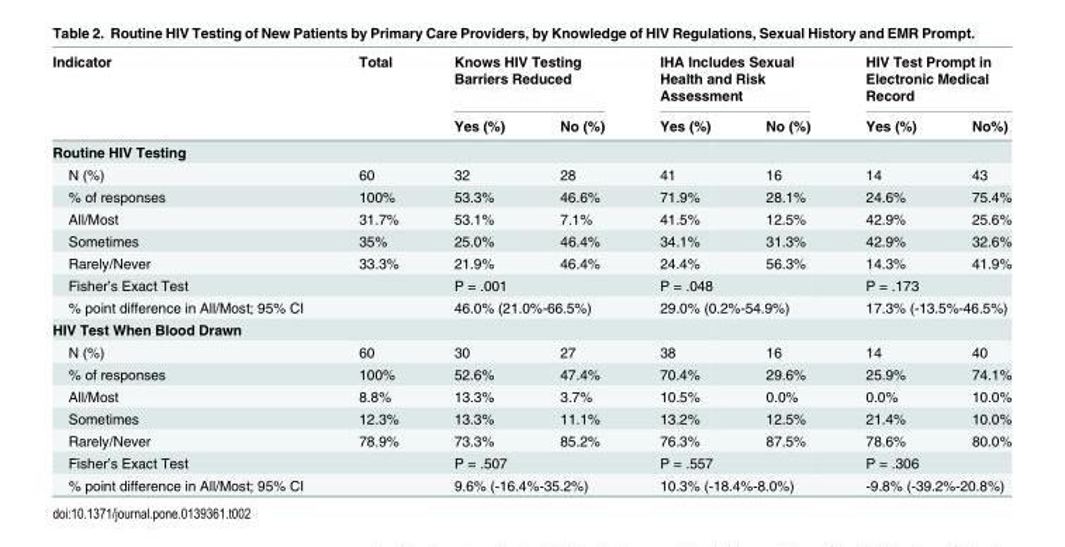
<table><thead><tr><td rowspan="2">Indicator</td><td rowspan="2">Total</td><td colspan="2">Knows HIV Testing Barriers Reduced</td><td colspan="2">IHA Includes Sexual Health and Risk Assessment</td><td colspan="2">HIV Test Prompt in Electronic Medical Record</td></tr><tr><td>Yes (%)</td><td>No (%)</td><td>Yes (%)</td><td>No (%)</td><td>Yes (%)</td><td>No%)</td></tr></thead><tbody><tr><td colspan="8">Routine HIV Testing</td></tr><tr><td>N (%)</td><td>60</td><td>32</td><td>28</td><td>41</td><td>16</td><td>14</td><td>43</td></tr><tr><td>% of responses</td><td>100%</td><td>53.3%</td><td>46.6%</td><td>71.9%</td><td>28.1%</td><td>24.6%</td><td>75.4%</td></tr><tr><td>All/Most</td><td>31.7%</td><td>53.1%</td><td>7.1%</td><td>41.5%</td><td>12.5%</td><td>42.9%</td><td>25.6%</td></tr><tr><td>Sometimes</td><td>35%</td><td>25.0%</td><td>46.4%</td><td>34.1%</td><td>31.3%</td><td>42.9%</td><td>32.6%</td></tr><tr><td>Rarely/Never</td><td>33.3%</td><td>21.9%</td><td>46.4%</td><td>24.4%</td><td>56.3%</td><td>14.3%</td><td>41.9%</td></tr><tr><td>Fisher’s Exact Test</td><td></td><td colspan="2">P = .001</td><td colspan="2">P = .048</td><td colspan="2">P = .173</td></tr><tr><td>% point difference in All/Most; 95% CI</td><td></td><td colspan="2">46.0% (21.0%-66.5%)</td><td colspan="2">29.0% (0.2%-54.9%)</td><td colspan="2">17.3% (-13.5%-46.5%)</td></tr><tr><td colspan="8">HIV Test When Blood Drawn</td></tr><tr><td>N (%)</td><td>60</td><td>30</td><td>27</td><td>38</td><td>16</td><td>14</td><td>40</td></tr><tr><td>% of responses</td><td>100%</td><td>52.6%</td><td>47.4%</td><td>70.4%</td><td>29.6%</td><td>25.9%</td><td>74.1%</td></tr><tr><td>All/Most</td><td>8.8%</td><td>13.3%</td><td>3.7%</td><td>10.5%</td><td>0.0%</td><td>0.0%</td><td>10.0%</td></tr><tr><td>Sometimes</td><td>12.3%</td><td>13.3%</td><td>11.1%</td><td>13.2%</td><td>12.5%</td><td>21.4%</td><td>10.0%</td></tr><tr><td>Rarely/Never</td><td>78.9%</td><td>73.3%</td><td>85.2%</td><td>76.3%</td><td>87.5%</td><td>78.6%</td><td>80.0%</td></tr><tr><td>Fisher’s Exact Test</td><td></td><td colspan="2">P = .507</td><td colspan="2">P = .557</td><td colspan="2">P = .306</td></tr><tr><td>% point difference in All/Most; 95% CI</td><td></td><td colspan="2">9.6% (-16.4%-35.2%)</td><td colspan="2">10.3% (-18.4%-8.0%)</td><td colspan="2">-9.8% (-39.2%-20.8%)</td></tr></tbody></table>